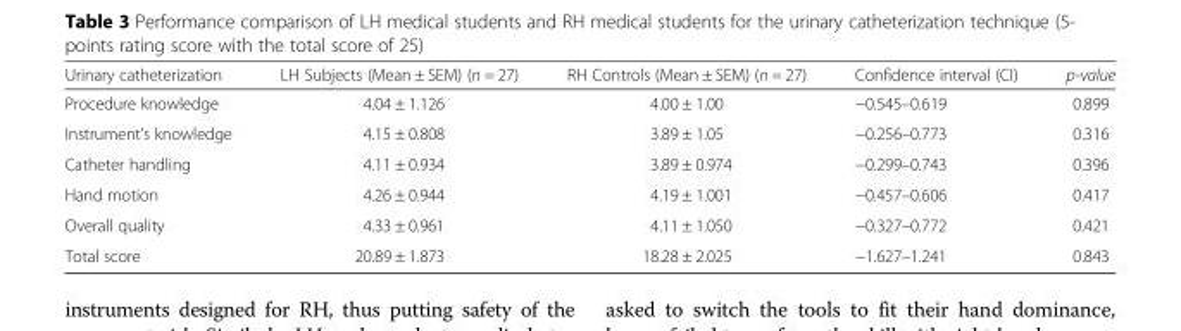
<table><thead><tr><td>Urinary catheterization</td><td>LH Subjects (Mean ± SEM) (n = 27)</td><td>RH Controls (Mean ± SEM) (n = 27)</td><td>Confidence interval (CI)</td><td>p-value</td></tr></thead><tbody><tr><td>Procedure knowledge</td><td>4.04 ± 1.126</td><td>4.00 ± 1.00</td><td>−0.545–0.619</td><td>0.899</td></tr><tr><td>Instrument’s knowledge</td><td>4.15 ± 0.808</td><td>3.89 ± 1.05</td><td>−0.256–0.773</td><td>0.316</td></tr><tr><td>Catheter handling</td><td>4.11 ± 0.934</td><td>3.89 ± 0.974</td><td>−0.299–0.743</td><td>0.396</td></tr><tr><td>Hand motion</td><td>4.26 ± 0.944</td><td>4.19 ± 1.001</td><td>−0.457–0.606</td><td>0.417</td></tr><tr><td>Overall quality</td><td>4.33 ± 0.961</td><td>4.11 ± 1.050</td><td>−0.327–0.772</td><td>0.421</td></tr><tr><td>Total score</td><td>20.89 ± 1.873</td><td>18.28 ± 2.025</td><td>−1.627–1.241</td><td>0.843</td></tr></tbody></table>